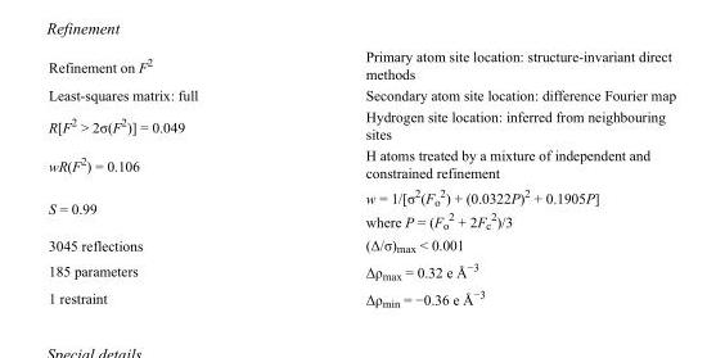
<table><tbody><tr><td>Refinement on F<sup>2</sup></td><td>Primary atom site location: structure-invariant direct methods</td></tr><tr><td>Least-squares matrix: full</td><td>Secondary atom site location: difference Fourier map</td></tr><tr><td>R[F<sup>2</sup> &gt; 2σ(F<sup>2</sup>)] = 0.049</td><td>Hydrogen site location: inferred from neighbouring sites</td></tr><tr><td>wR(F<sup>2</sup>) = 0.106</td><td>H atoms treated by a mixture of independent and constrained refinement</td></tr><tr><td>S = 0.99</td><td>w = 1/[σ<sup>2</sup>(F<sub>o</sub> <sup>2</sup>) + (0.0322P)<sup>2</sup> + 0.1905P] where P = (F<sub>o</sub> <sup>2</sup> + 2F<sub>c</sub> <sup>2</sup>)/3</td></tr><tr><td>3045 reflections</td><td>(Δ/σ)<sub>max</sub> &lt; 0.001</td></tr><tr><td>185 parameters</td><td>Δρ<sub>max</sub> = 0.32 e Å<sup>−3</sup></td></tr><tr><td>1 restraint</td><td>Δρ<sub>min</sub> = −0.36 e Å<sup>−3</sup></td></tr></tbody></table>